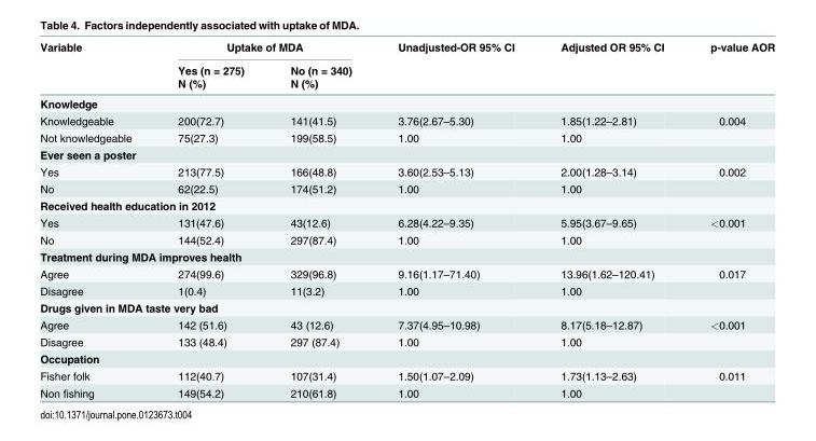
<table><thead><tr><td rowspan="3">Variable</td><td colspan="2">Uptake of MDA</td><td rowspan="3">Unadjusted-OR 95% CI</td><td rowspan="3">Adjusted OR 95% CI</td><td rowspan="3">p-value AOR</td></tr><tr><td rowspan="2">Yes (n = 275) N (%)</td><td rowspan="2">No (n = 340) N (%)</td></tr><tr></tr></thead><tbody><tr><td colspan="6">Knowledge</td></tr><tr><td>Knowledgeable</td><td>200(72.7)</td><td>141(41.5)</td><td>3.76(2.67–5.30)</td><td>1.85(1.22–2.81)</td><td>0.004</td></tr><tr><td>Not knowledgeable</td><td>75(27.3)</td><td>199(58.5)</td><td>1.00</td><td>1.00</td><td></td></tr><tr><td colspan="6">Ever seen a poster</td></tr><tr><td>Yes</td><td>213(77.5)</td><td>166(48.8)</td><td>3.60(2.53–5.13)</td><td>2.00(1.28–3.14)</td><td>0.002</td></tr><tr><td>No</td><td>62(22.5)</td><td>174(51.2)</td><td>1.00</td><td>1.00</td><td></td></tr><tr><td colspan="6">Received health education in 2012</td></tr><tr><td>Yes</td><td>131(47.6)</td><td>43(12.6)</td><td>6.28(4.22–9.35)</td><td>5.95(3.67–9.65)</td><td>&lt;0.001</td></tr><tr><td>No</td><td>144(52.4)</td><td>297(87.4)</td><td>1.00</td><td>1.00</td><td></td></tr><tr><td colspan="6">Treatment during MDA improves health</td></tr><tr><td>Agree</td><td>274(99.6)</td><td>329(96.8)</td><td>9.16(1.17–71.40)</td><td>13.96(1.62–120.41)</td><td>0.017</td></tr><tr><td>Disagree</td><td>1(0.4)</td><td>11(3.2)</td><td>1.00</td><td>1.00</td><td></td></tr><tr><td colspan="6">Drugs given in MDA taste very bad</td></tr><tr><td>Agree</td><td>142 (51.6)</td><td>43 (12.6)</td><td>7.37(4.95–10.98)</td><td>8.17(5.18–12.87)</td><td>&lt;0.001</td></tr><tr><td>Disagree</td><td>133 (48.4)</td><td>297 (87.4)</td><td>1.00</td><td>1.00</td><td></td></tr><tr><td colspan="6">Occupation</td></tr><tr><td>Fisher folk</td><td>112(40.7)</td><td>107(31.4)</td><td>1.50(1.07–2.09)</td><td>1.73(1.13–2.63)</td><td>0.011</td></tr><tr><td>Non fishing</td><td>149(54.2)</td><td>210(61.8)</td><td>1.00</td><td>1.00</td><td></td></tr></tbody></table>